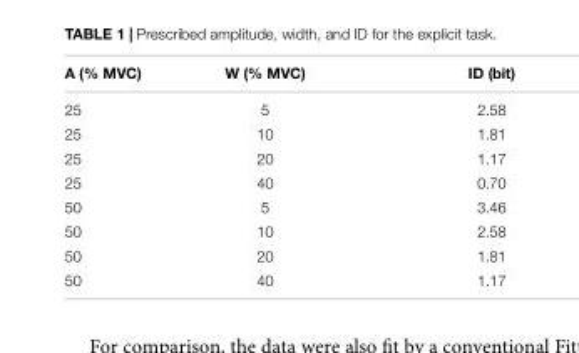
<table><thead><tr><td>A (% MVC)</td><td>W (% MVC)</td><td>ID (bit)</td></tr></thead><tbody><tr><td>25</td><td>5</td><td>2.58</td></tr><tr><td>25</td><td>10</td><td>1.81</td></tr><tr><td>25</td><td>20</td><td>1.17</td></tr><tr><td>25</td><td>40</td><td>0.70</td></tr><tr><td>50</td><td>5</td><td>3.46</td></tr><tr><td>50</td><td>10</td><td>2.58</td></tr><tr><td>50</td><td>20</td><td>1.81</td></tr><tr><td>50</td><td>40</td><td>1.17</td></tr></tbody></table>